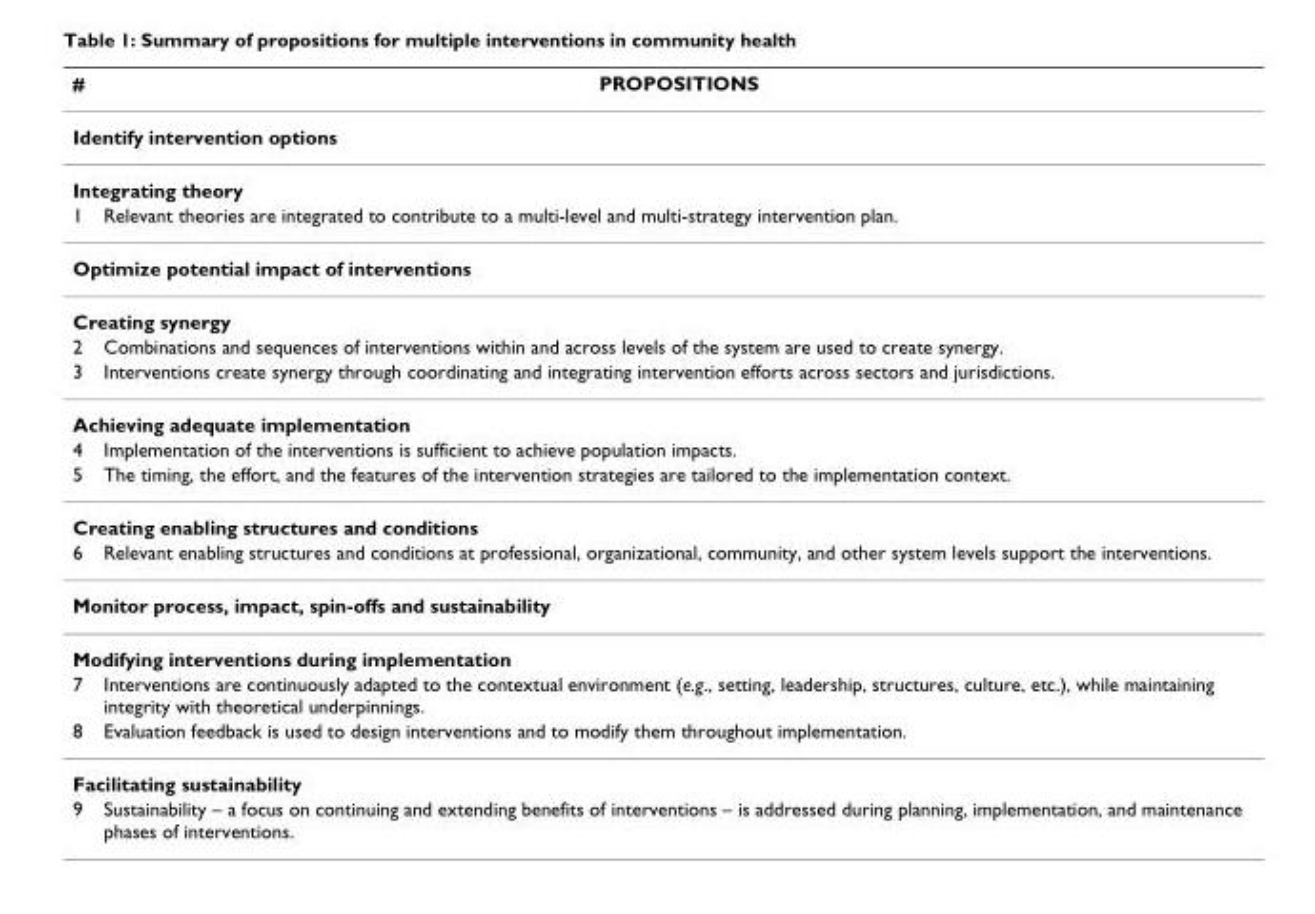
<table><thead><tr><td>#</td><td>PROPOSITIONS</td></tr></thead><tbody><tr><td colspan="2">Identify intervention options</td></tr><tr><td colspan="2">Integrating theory</td></tr><tr><td>1</td><td>Relevant theories are integrated to contribute to a multi-level and multi-strategy intervention plan.</td></tr><tr><td colspan="2">Optimize potential impact of interventions</td></tr><tr><td colspan="2">Creating synergy</td></tr><tr><td>2</td><td>Combinations and sequences of interventions within and across levels of the system are used to create synergy.</td></tr><tr><td>3</td><td>Interventions create synergy through coordinating and integrating intervention efforts across sectors and jurisdictions.</td></tr><tr><td colspan="2">Achieving adequate implementation</td></tr><tr><td>4</td><td>Implementation of the interventions is sufficient to achieve population impacts.</td></tr><tr><td>5</td><td>The timing, the effort, and the features of the intervention strategies are tailored to the implementation context.</td></tr><tr><td colspan="2">Creating enabling structures and conditions</td></tr><tr><td>6</td><td>Relevant enabling structures and conditions at professional, organizational, community, and other system levels support the interventions.</td></tr><tr><td colspan="2">Monitor process, impact, spin-offs and sustainability</td></tr><tr><td colspan="2">Modifying interventions during implementation</td></tr><tr><td>7</td><td>Interventions are continuously adapted to the contextual environment (e.g., setting, leadership, structures, culture, etc.), while maintaining integrity with theoretical underpinnings.</td></tr><tr><td>8</td><td>Evaluation feedback is used to design interventions and to modify them throughout implementation.</td></tr><tr><td colspan="2">Facilitating sustainability</td></tr><tr><td>9</td><td>Sustainability – a focus on continuing and extending benefits of interventions – is addressed during planning, implementation, and maintenance phases of interventions.</td></tr></tbody></table>